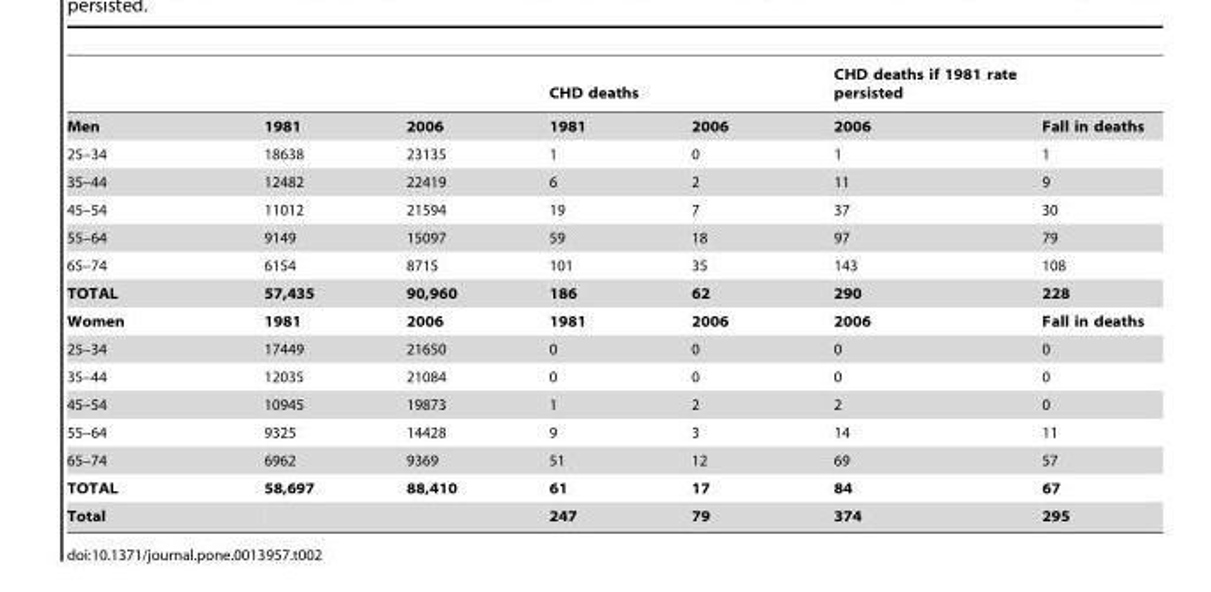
<table><thead><tr><td rowspan="2">Men</td><td rowspan="2">1981</td><td rowspan="2">2006</td><td colspan="2">CHD deaths</td><td rowspan="2">CHD deaths if 1981 rate persisted 2006</td><td rowspan="2">Fall in deaths</td></tr><tr><td>1981</td><td>2006</td></tr></thead><tbody><tr><td>25–34</td><td>18638</td><td>23135</td><td>1</td><td>0</td><td>1</td><td>1</td></tr><tr><td>35–44</td><td>12482</td><td>22419</td><td>6</td><td>2</td><td>11</td><td>9</td></tr><tr><td>45–54</td><td>11012</td><td>21594</td><td>19</td><td>7</td><td>37</td><td>30</td></tr><tr><td>55–64</td><td>9149</td><td>15097</td><td>59</td><td>18</td><td>97</td><td>79</td></tr><tr><td>65–74</td><td>6154</td><td>8715</td><td>101</td><td>35</td><td>143</td><td>108</td></tr><tr><td>TOTAL</td><td>57,435</td><td>90,960</td><td>186</td><td>62</td><td>290</td><td>228</td></tr><tr><td>Women</td><td>1981</td><td>2006</td><td>1981</td><td>2006</td><td>2006</td><td>Fall in deaths</td></tr><tr><td>25–34</td><td>17449</td><td>21650</td><td>0</td><td>0</td><td>0</td><td>0</td></tr><tr><td>35–44</td><td>12035</td><td>21084</td><td>0</td><td>0</td><td>0</td><td>0</td></tr><tr><td>45–54</td><td>10945</td><td>19873</td><td>1</td><td>2</td><td>2</td><td>0</td></tr><tr><td>55–64</td><td>9325</td><td>14428</td><td>9</td><td>3</td><td>14</td><td>11</td></tr><tr><td>65–74</td><td>6962</td><td>9369</td><td>51</td><td>12</td><td>69</td><td>57</td></tr><tr><td>TOTAL</td><td>58,697</td><td>88,410</td><td>61</td><td>17</td><td>84</td><td>67</td></tr><tr><td>Total</td><td></td><td></td><td>247</td><td>79</td><td>374</td><td>295</td></tr></tbody></table>